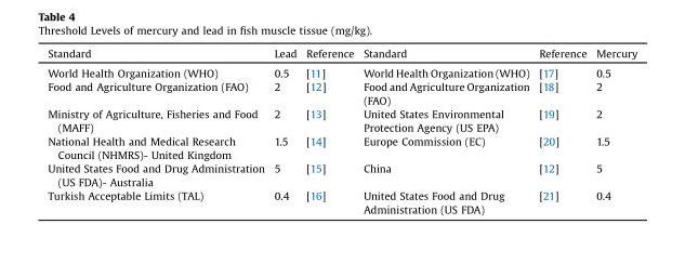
<table><thead><tr><td>Standard</td><td>Lead</td><td>Reference</td><td>Standard</td><td>Reference</td><td>Mercury</td></tr></thead><tbody><tr><td>World Health Organization (WHO)</td><td>0.5</td><td>[11]</td><td>World Health Organization (WHO)</td><td>[17]</td><td>0.5</td></tr><tr><td>Food and Agriculture Organization (FAO)</td><td>2</td><td>[12]</td><td>Food and Agriculture Organization (FAO)</td><td>[18]</td><td>2</td></tr><tr><td>Ministry of Agriculture, Fisheries and Food (MAFF)</td><td>2</td><td>[13]</td><td>United States Environmental Protection Agency (US EPA)</td><td>[19]</td><td>2</td></tr><tr><td>National Health and Medical Research Council (NHMRS)- United Kingdom</td><td>1.5</td><td>[14]</td><td>Europe Commission (EC)</td><td>[20]</td><td>1.5</td></tr><tr><td>United States Food and Drug Administration (US FDA)- Australia</td><td>5</td><td>[15]</td><td>China</td><td>[12]</td><td>5</td></tr><tr><td>Turkish Acceptable Limits (TAL)</td><td>0.4</td><td>[16]</td><td>United States Food and Drug Administration (US FDA)</td><td>[21]</td><td>0.4</td></tr></tbody></table>